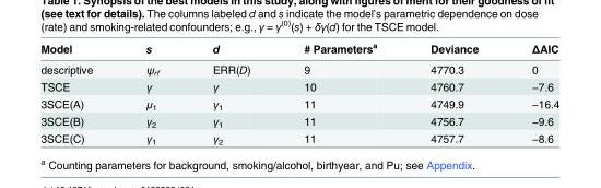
<table><thead><tr><td>Model</td><td>s</td><td>d</td><td># Parameters<sup>a</sup></td><td>Deviance</td><td>ΔAIC</td></tr></thead><tbody><tr><td>descriptive</td><td>ψ<sub>rf</sub></td><td>ERR(D)</td><td>9</td><td>4770.3</td><td>0</td></tr><tr><td>TSCE</td><td>γ</td><td>γ</td><td>10</td><td>4760.7</td><td>−7.6</td></tr><tr><td>3SCE(A)</td><td>μ<sub>1</sub></td><td>γ<sub>1</sub></td><td>11</td><td>4749.9</td><td>−16.4</td></tr><tr><td>3SCE(B)</td><td>γ<sub>2</sub></td><td>γ<sub>1</sub></td><td>11</td><td>4756.7</td><td>−9.6</td></tr><tr><td>3SCE(C)</td><td>γ<sub>1</sub></td><td>γ<sub>2</sub></td><td>11</td><td>4757.7</td><td>−8.6</td></tr></tbody></table>